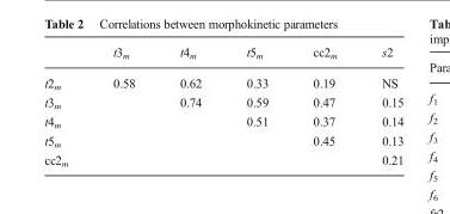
<table><thead><tr><td></td><td>t3<sub>m</sub></td><td>t4<sub>m</sub></td><td>t5<sub>m</sub></td><td>cc2<sub>m</sub></td><td>s2</td></tr></thead><tbody><tr><td>t2<sub>m</sub></td><td>0.58</td><td>0.62</td><td>0.33</td><td>0.19</td><td>NS</td></tr><tr><td>t3<sub>m</sub></td><td></td><td>0.74</td><td>0.59</td><td>0.47</td><td>0.15</td></tr><tr><td>t4<sub>m</sub></td><td></td><td></td><td>0.51</td><td>0.37</td><td>0.14</td></tr><tr><td>t5<sub>m</sub></td><td></td><td></td><td></td><td>0.45</td><td>0.13</td></tr><tr><td>cc2<sub>m</sub></td><td></td><td></td><td></td><td></td><td>0.21</td></tr></tbody></table>